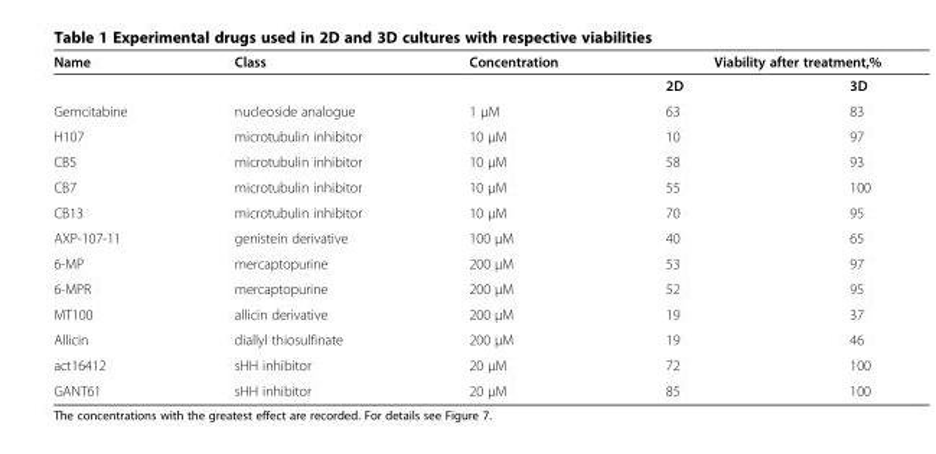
<table><thead><tr><td rowspan="2">Name</td><td rowspan="2">Class</td><td rowspan="2">Concentration</td><td colspan="2">Viability after treatment,%</td></tr><tr><td>2D</td><td>3D</td></tr></thead><tbody><tr><td>Gemcitabine</td><td>nucleoside analogue</td><td>1 μM</td><td>63</td><td>83</td></tr><tr><td>H107</td><td>microtubulin inhibitor</td><td>10 μM</td><td>10</td><td>97</td></tr><tr><td>CB5</td><td>microtubulin inhibitor</td><td>10 μM</td><td>58</td><td>93</td></tr><tr><td>CB7</td><td>microtubulin inhibitor</td><td>10 μM</td><td>55</td><td>100</td></tr><tr><td>CB13</td><td>microtubulin inhibitor</td><td>10 μM</td><td>70</td><td>95</td></tr><tr><td>AXP-107-11</td><td>genistein derivative</td><td>100 μM</td><td>40</td><td>65</td></tr><tr><td>6-MP</td><td>mercaptopurine</td><td>200 μM</td><td>53</td><td>97</td></tr><tr><td>6-MPR</td><td>mercaptopurine</td><td>200 μM</td><td>52</td><td>95</td></tr><tr><td>MT100</td><td>allicin derivative</td><td>200 μM</td><td>19</td><td>37</td></tr><tr><td>Allicin</td><td>diallyl thiosulfinate</td><td>200 μM</td><td>19</td><td>46</td></tr><tr><td>act16412</td><td>sHH inhibitor</td><td>20 μM</td><td>72</td><td>100</td></tr><tr><td>GANT61</td><td>sHH inhibitor</td><td>20 μM</td><td>85</td><td>100</td></tr></tbody></table>